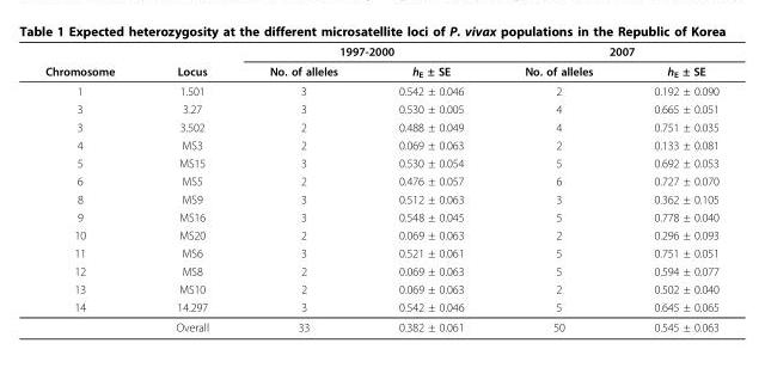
<table><thead><tr><td rowspan="2">Chromosome</td><td rowspan="2">Locus</td><td colspan="2">1997-2000</td><td colspan="2">2007</td></tr><tr><td>No. of alleles</td><td>h<sub>E</sub> ± SE</td><td>No. of alleles</td><td>h<sub>E</sub> ± SE</td></tr></thead><tbody><tr><td>1</td><td>1.501</td><td>3</td><td>0.542 ± 0.046</td><td>2</td><td>0.192 ± 0.090</td></tr><tr><td>3</td><td>3.27</td><td>3</td><td>0.530 ± 0.005</td><td>4</td><td>0.665 ± 0.051</td></tr><tr><td>3</td><td>3.502</td><td>2</td><td>0.488 ± 0.049</td><td>4</td><td>0.751 ± 0.035</td></tr><tr><td>4</td><td>MS3</td><td>2</td><td>0.069 ± 0.063</td><td>2</td><td>0.133 ± 0.081</td></tr><tr><td>5</td><td>MS15</td><td>3</td><td>0.530 ± 0.054</td><td>5</td><td>0.692 ± 0.053</td></tr><tr><td>6</td><td>MS5</td><td>2</td><td>0.476 ± 0.057</td><td>6</td><td>0.727 ± 0.070</td></tr><tr><td>8</td><td>MS9</td><td>3</td><td>0.512 ± 0.063</td><td>3</td><td>0.362 ± 0.105</td></tr><tr><td>9</td><td>MS16</td><td>3</td><td>0.548 ± 0.045</td><td>5</td><td>0.778 ± 0.040</td></tr><tr><td>10</td><td>MS20</td><td>2</td><td>0.069 ± 0.063</td><td>2</td><td>0.296 ± 0.093</td></tr><tr><td>11</td><td>MS6</td><td>3</td><td>0.521 ± 0.061</td><td>5</td><td>0.751 ± 0.051</td></tr><tr><td>12</td><td>MS8</td><td>2</td><td>0.069 ± 0.063</td><td>5</td><td>0.594 ± 0.077</td></tr><tr><td>13</td><td>MS10</td><td>2</td><td>0.069 ± 0.063</td><td>2</td><td>0.502 ± 0.040</td></tr><tr><td rowspan="2">14</td><td>14.297</td><td>3</td><td>0.542 ± 0.046</td><td>5</td><td>0.645 ± 0.065</td></tr><tr><td>Overall</td><td>33</td><td>0.382 ± 0.061</td><td>50</td><td>0.545 ± 0.063</td></tr></tbody></table>